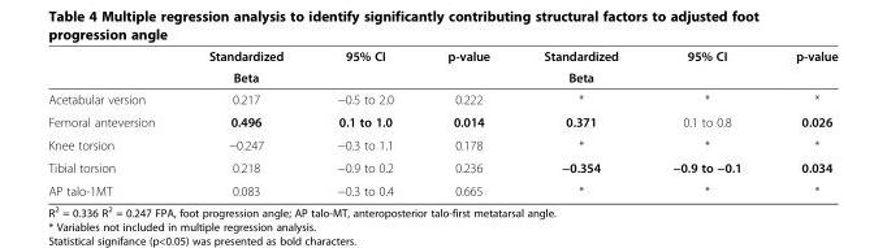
<table><thead><tr><td rowspan="2"></td><td rowspan="2">Standardized Beta</td><td rowspan="2">95% CI</td><td rowspan="2">p-value</td><td rowspan="2">Standardized Beta</td><td rowspan="2">95% CI</td><td rowspan="2">p-value</td></tr><tr></tr></thead><tbody><tr><td>Acetabular version</td><td>0.217</td><td>−0.5 to 2.0</td><td>0.222</td><td>*</td><td>*</td><td>*</td></tr><tr><td>Femoral anteversion</td><td>0.496</td><td>0.1 to 1.0</td><td>0.014</td><td>0.371</td><td>0.1 to 0.8</td><td>0.026</td></tr><tr><td>Knee torsion</td><td>−0.247</td><td>−0.3 to 1.1</td><td>0.178</td><td>*</td><td>*</td><td>*</td></tr><tr><td>Tibial torsion</td><td>0.218</td><td>−0.9 to 0.2</td><td>0.236</td><td>−0.354</td><td>−0.9 to −0.1</td><td>0.034</td></tr><tr><td>AP talo-1MT</td><td>0.083</td><td>−0.3 to 0.4</td><td>0.665</td><td>*</td><td>*</td><td>*</td></tr></tbody></table>